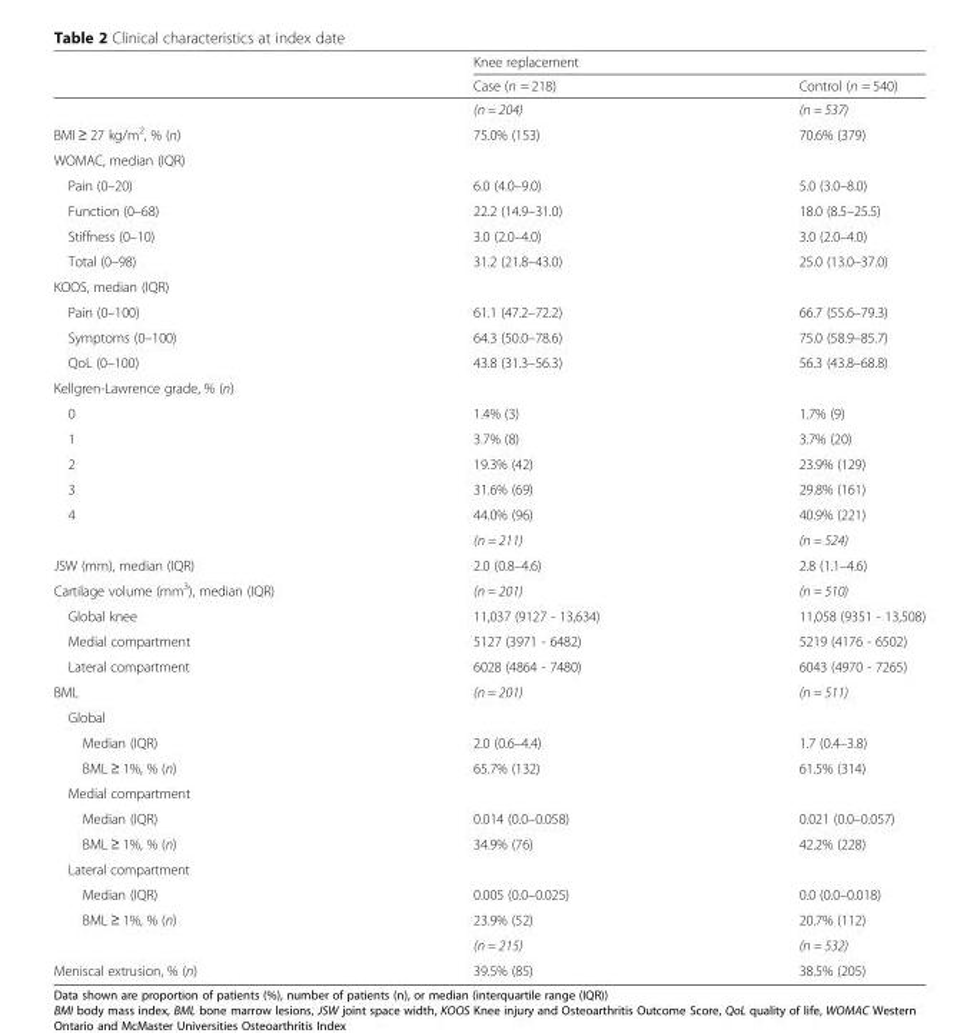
<table><thead><tr><td rowspan="2"></td><td colspan="2">Knee replacement</td></tr><tr><td>Case (n = 218)</td><td>Control (n = 540)</td></tr></thead><tbody><tr><td></td><td>(n = 204)</td><td>(n = 537)</td></tr><tr><td>BMI ≥ 27 kg/m<sup>2</sup>, % (n)</td><td>75.0% (153)</td><td>70.6% (379)</td></tr><tr><td colspan="3">WOMAC, median (IQR)</td></tr><tr><td>Pain (0–20)</td><td>6.0 (4.0–9.0)</td><td>5.0 (3.0–8.0)</td></tr><tr><td>Function (0–68)</td><td>22.2 (14.9–31.0)</td><td>18.0 (8.5–25.5)</td></tr><tr><td>Stiffness (0–10)</td><td>3.0 (2.0–4.0)</td><td>3.0 (2.0–4.0)</td></tr><tr><td>Total (0–98)</td><td>31.2 (21.8–43.0)</td><td>25.0 (13.0–37.0)</td></tr><tr><td colspan="3">KOOS, median (IQR)</td></tr><tr><td>Pain (0–100)</td><td>61.1 (47.2–72.2)</td><td>66.7 (55.6–79.3)</td></tr><tr><td>Symptoms (0–100)</td><td>64.3 (50.0–78.6)</td><td>75.0 (58.9–85.7)</td></tr><tr><td>QoL (0–100)</td><td>43.8 (31.3–56.3)</td><td>56.3 (43.8–68.8)</td></tr><tr><td colspan="3">Kellgren-Lawrence grade, % (n)</td></tr><tr><td>0</td><td>1.4% (3)</td><td>1.7% (9)</td></tr><tr><td>1</td><td>3.7% (8)</td><td>3.7% (20)</td></tr><tr><td>2</td><td>19.3% (42)</td><td>23.9% (129)</td></tr><tr><td>3</td><td>31.6% (69)</td><td>29.8% (161)</td></tr><tr><td rowspan="2">4</td><td>44.0% (96)</td><td>40.9% (221)</td></tr><tr><td>(n = 211)</td><td>(n = 524)</td></tr><tr><td>JSW (mm), median (IQR)</td><td>2.0 (0.8–4.6)</td><td>2.8 (1.1–4.6)</td></tr><tr><td>Cartilage volume (mm<sup>3</sup>), median (IQR)</td><td>(n = 201)</td><td>(n = 510)</td></tr><tr><td>Global knee</td><td>11,037 (9127 - 13,634)</td><td>11,058 (9351 - 13,508)</td></tr><tr><td>Medial compartment</td><td>5127 (3971 - 6482)</td><td>5219 (4176 - 6502)</td></tr><tr><td>Lateral compartment</td><td>6028 (4864 - 7480)</td><td>6043 (4970 - 7265)</td></tr><tr><td>BML</td><td>(n = 201)</td><td>(n = 511)</td></tr><tr><td colspan="3">Global</td></tr><tr><td>Median (IQR)</td><td>2.0 (0.6–4.4)</td><td>1.7 (0.4–3.8)</td></tr><tr><td>BML ≥ 1%, % (n)</td><td>65.7% (132)</td><td>61.5% (314)</td></tr><tr><td colspan="3">Medial compartment</td></tr><tr><td>Median (IQR)</td><td>0.014 (0.0–0.058)</td><td>0.021 (0.0–0.057)</td></tr><tr><td>BML ≥ 1%, % (n)</td><td>34.9% (76)</td><td>42.2% (228)</td></tr><tr><td colspan="3">Lateral compartment</td></tr><tr><td>Median (IQR)</td><td>0.005 (0.0–0.025)</td><td>0.0 (0.0–0.018)</td></tr><tr><td rowspan="2">BML ≥ 1%, % (n)</td><td>23.9% (52)</td><td>20.7% (112)</td></tr><tr><td>(n = 215)</td><td>(n = 532)</td></tr><tr><td>Meniscal extrusion, % (n)</td><td>39.5% (85)</td><td>38.5% (205)</td></tr></tbody></table>